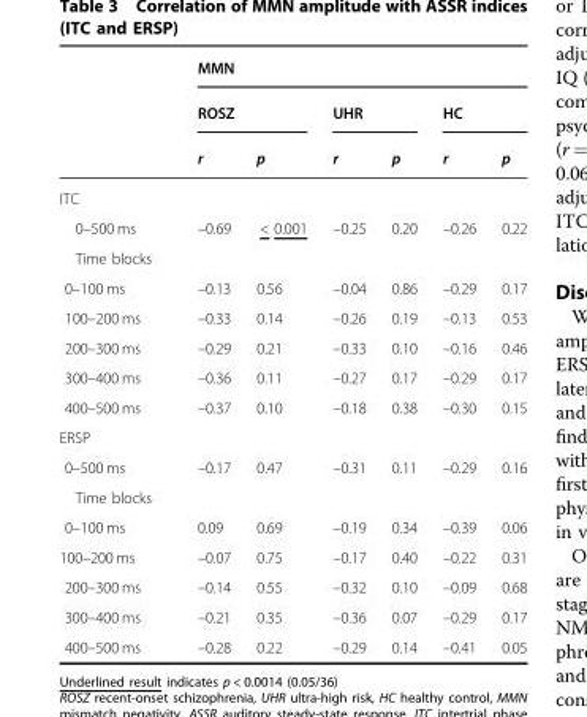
<table><thead><tr><td rowspan="3"></td><td colspan="6">MMN</td></tr><tr><td colspan="2">ROSZ</td><td colspan="2">UHR</td><td colspan="2">HC</td></tr><tr><td>r</td><td>p</td><td>r</td><td>p</td><td>r</td><td>p</td></tr></thead><tbody><tr><td colspan="7">ITC</td></tr><tr><td>0–500 ms</td><td>–0.69</td><td>&lt; 0.001</td><td>–0.25</td><td>0.20</td><td>–0.26</td><td>0.22</td></tr><tr><td colspan="7">Time blocks</td></tr><tr><td>0–100 ms</td><td>–0.13</td><td>0.56</td><td>–0.04</td><td>0.86</td><td>–0.29</td><td>0.17</td></tr><tr><td>100–200 ms</td><td>–0.33</td><td>0.14</td><td>–0.26</td><td>0.19</td><td>–0.13</td><td>0.53</td></tr><tr><td>200–300 ms</td><td>–0.29</td><td>0.21</td><td>–0.33</td><td>0.10</td><td>–0.16</td><td>0.46</td></tr><tr><td>300–400 ms</td><td>–0.36</td><td>0.11</td><td>–0.27</td><td>0.17</td><td>–0.29</td><td>0.17</td></tr><tr><td>400–500 ms</td><td>–0.37</td><td>0.10</td><td>–0.18</td><td>0.38</td><td>–0.30</td><td>0.15</td></tr><tr><td colspan="7">ERSP</td></tr><tr><td>0–500 ms</td><td>–0.17</td><td>0.47</td><td>–0.31</td><td>0.11</td><td>–0.29</td><td>0.16</td></tr><tr><td colspan="7">Time blocks</td></tr><tr><td>0–100 ms</td><td>0.09</td><td>0.69</td><td>–0.19</td><td>0.34</td><td>–0.39</td><td>0.06</td></tr><tr><td>100–200 ms</td><td>–0.07</td><td>0.75</td><td>–0.17</td><td>0.40</td><td>–0.22</td><td>0.31</td></tr><tr><td>200–300 ms</td><td>–0.14</td><td>0.55</td><td>–0.32</td><td>0.10</td><td>–0.09</td><td>0.68</td></tr><tr><td>300–400 ms</td><td>–0.21</td><td>0.35</td><td>–0.36</td><td>0.07</td><td>–0.29</td><td>0.17</td></tr><tr><td>400–500 ms</td><td>–0.28</td><td>0.22</td><td>–0.29</td><td>0.14</td><td>–0.41</td><td>0.05</td></tr></tbody></table>